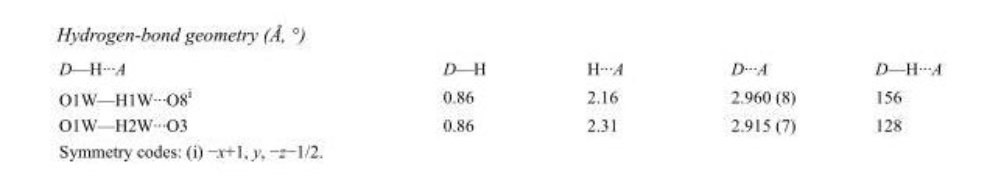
<table><tbody><tr><td>D—H···A</td><td>D—H</td><td>H···A</td><td>D···A</td><td>D—H···A</td></tr><tr><td>O1W—H1W···O8<sup>i</sup></td><td>0.86</td><td>2.16</td><td>2.960 (8)</td><td>156</td></tr><tr><td>O1W—H2W···O3</td><td>0.86</td><td>2.31</td><td>2.915 (7)</td><td>128</td></tr></tbody></table>